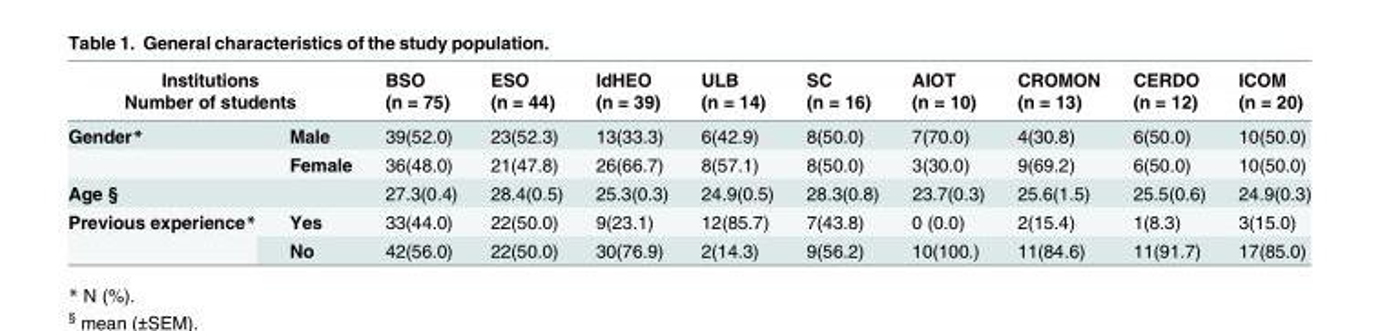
<table><thead><tr><td rowspan="2" colspan="2">Institutions Number of students</td><td rowspan="3">BSO (n = 75) 39(52.0)</td><td rowspan="3">ESO (n = 44) 23(52.3)</td><td rowspan="3">IdHEO (n = 39) 13(33.3)</td><td rowspan="3">ULB (n = 14) 6(42.9)</td><td rowspan="3">SC (n = 16) 8(50.0)</td><td rowspan="3">AIOT (n = 10) 7(70.0)</td><td rowspan="3">CROMON (n = 13) 4(30.8)</td><td rowspan="3">CERDO (n = 12) 6(50.0)</td><td rowspan="3">ICOM (n = 20) 10(50.0)</td></tr><tr></tr><tr><td>Gender*</td><td>Male</td></tr></thead><tbody><tr><td></td><td>Female</td><td>36(48.0)</td><td>21(47.8)</td><td>26(66.7)</td><td>8(57.1)</td><td>8(50.0)</td><td>3(30.0)</td><td>9(69.2)</td><td>6(50.0)</td><td>10(50.0)</td></tr><tr><td>Age §</td><td></td><td>27.3(0.4)</td><td>28.4(0.5)</td><td>25.3(0.3)</td><td>24.9(0.5)</td><td>28.3(0.8)</td><td>23.7(0.3)</td><td>25.6(1.5)</td><td>25.5(0.6)</td><td>24.9(0.3)</td></tr><tr><td rowspan="2">Previous experience*</td><td>Yes</td><td>33(44.0)</td><td>22(50.0)</td><td>9(23.1)</td><td>12(85.7)</td><td>7(43.8)</td><td>0 (0.0)</td><td>2(15.4)</td><td>1(8.3)</td><td>3(15.0)</td></tr><tr><td>No</td><td>42(56.0)</td><td>22(50.0)</td><td>30(76.9)</td><td>2(14.3)</td><td>9(56.2)</td><td>10(100.)</td><td>11(84.6)</td><td>11(91.7)</td><td>17(85.0)</td></tr></tbody></table>